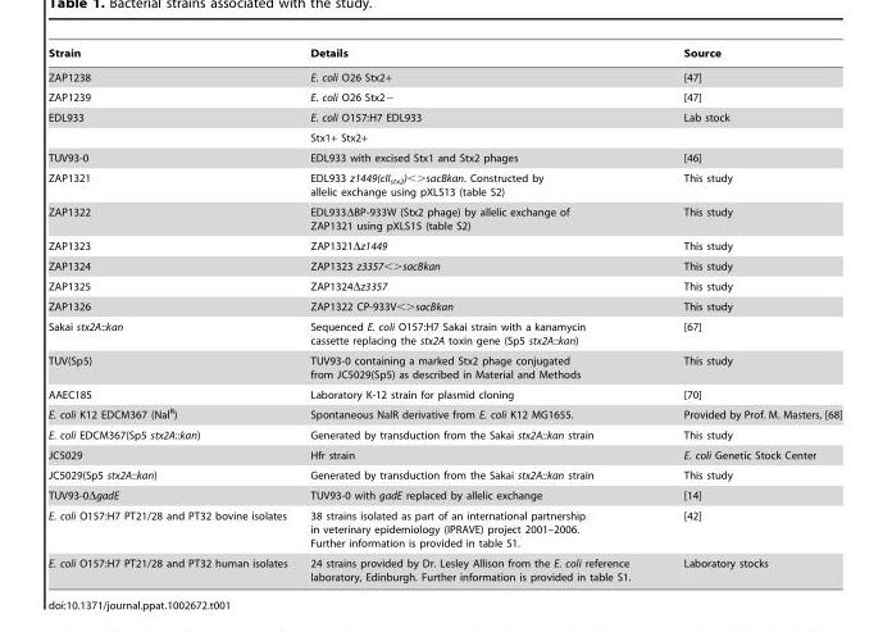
<table><thead><tr><td>Strain</td><td>Details</td><td>Source</td></tr></thead><tbody><tr><td>ZAP1238</td><td>E. coli O26 Stx2+</td><td>[47]</td></tr><tr><td>ZAP1239</td><td>E. coli O26 Stx2−</td><td>[47]</td></tr><tr><td rowspan="2">EDL933</td><td>E. coli O157:H7 EDL933</td><td>Lab stock</td></tr><tr><td>Stx1+ Stx2+</td><td></td></tr><tr><td>TUV93-0</td><td>EDL933 with excised Stx1 and Stx2 phages</td><td>[46]</td></tr><tr><td>ZAP1321</td><td>EDL933 z1449(cII<sub>stx2</sub>)&lt;&gt;sacBkan. Constructed by allelic exchange using pXLS13 (table S2)</td><td>This study</td></tr><tr><td>ZAP1322</td><td>EDL933ΔBP-933W (Stx2 phage) by allelic exchange of ZAP1321 using pXLS15 (table S2)</td><td>This study</td></tr><tr><td>ZAP1323</td><td>ZAP1321Δz1449</td><td>This study</td></tr><tr><td>ZAP1324</td><td>ZAP1323 z3357&lt;&gt;sacBkan</td><td>This study</td></tr><tr><td>ZAP1325</td><td>ZAP1324Δz3357</td><td>This study</td></tr><tr><td>ZAP1326</td><td>ZAP1322 CP-933V&lt;&gt;sacBkan</td><td>This study</td></tr><tr><td>Sakai stx2A::kan</td><td>Sequenced E. coli O157:H7 Sakai strain with a kanamycin cassette replacing the stx2A toxin gene (Sp5 stx2A::kan)</td><td>[67]</td></tr><tr><td>TUV(Sp5)</td><td>TUV93-0 containing a marked Stx2 phage conjugated from JC5029(Sp5) as described in Material and Methods</td><td>This study</td></tr><tr><td>AAEC185</td><td>Laboratory K-12 strain for plasmid cloning</td><td>[70]</td></tr><tr><td>E. coli K12 EDCM367 (Nal<sup>R</sup>)</td><td>Spontaneous NalR derivative from E. coli K12 MG1655.</td><td>Provided by Prof. M. Masters, [68]</td></tr><tr><td>E. coli EDCM367(Sp5 stx2A::kan)</td><td>Generated by transduction from the Sakai stx2A::kan strain</td><td>This study</td></tr><tr><td>JC5029</td><td>Hfr strain</td><td>E. coli Genetic Stock Center</td></tr><tr><td>JC5029(Sp5 stx2A::kan)</td><td>Generated by transduction from the Sakai stx2A::kan strain</td><td>This study</td></tr><tr><td>TUV93-0ΔgadE</td><td>TUV93-0 with gadE replaced by allelic exchange</td><td>[14]</td></tr><tr><td>E. coli O157:H7 PT21/28 and PT32 bovine isolates</td><td>38 strains isolated as part of an international partnership in veterinary epidemiology (IPRAVE) project 2001–2006. Further information is provided in table S1.</td><td>[42]</td></tr><tr><td>E. coli O157:H7 PT21/28 and PT32 human isolates</td><td>24 strains provided by Dr. Lesley Allison from the E. coli reference laboratory, Edinburgh. Further information is provided in table S1.</td><td>Laboratory stocks</td></tr></tbody></table>